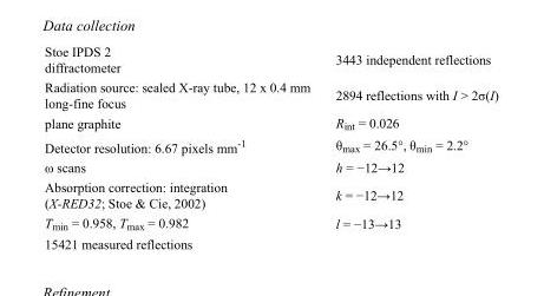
<table><tbody><tr><td>Stoe IPDS 2 diffractometer</td><td>3443 independent reflections</td></tr><tr><td>Radiation source: sealed X-ray tube, 12 x 0.4 mm long-fine focus</td><td>2894 reflections with I &gt; 2σ(I)</td></tr><tr><td>plane graphite</td><td>R<sub>int</sub> = 0.026</td></tr><tr><td>Detector resolution: 6.67 pixels mm<sup>-1</sup></td><td>θ<sub>max</sub> = 26.5°, θ<sub>min</sub> = 2.2°</td></tr><tr><td>ω scans</td><td>h = −12→12</td></tr><tr><td>Absorption correction: integration (X-RED32; Stoe &amp; Cie, 2002)</td><td>k = −12→12</td></tr><tr><td>T<sub>min</sub> = 0.958, T<sub>max</sub> = 0.982</td><td>l = −13→13</td></tr><tr><td>15421 measured reflections</td><td></td></tr></tbody></table>